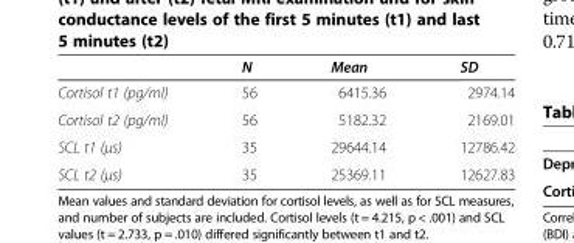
<table><thead><tr><td></td><td>N</td><td>Mean</td><td>SD</td></tr></thead><tbody><tr><td>Cortisol t1 (pg/ml)</td><td>56</td><td>6415.36</td><td>2974.14</td></tr><tr><td>Cortisol t2 (pg/ml)</td><td>56</td><td>5182.32</td><td>2169.01</td></tr><tr><td>SCL t1 (μs)</td><td>35</td><td>29644.14</td><td>12786.42</td></tr><tr><td>SCL t2 (μs)</td><td>35</td><td>25369.11</td><td>12627.83</td></tr></tbody></table>